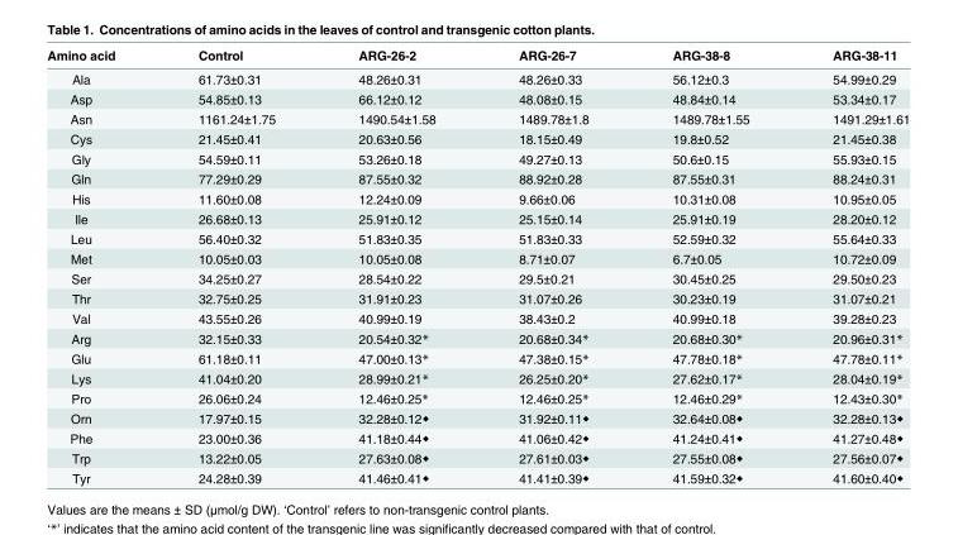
<table><thead><tr><td>Amino acid</td><td>Control</td><td>ARG-26-2</td><td>ARG-26-7</td><td>ARG-38-8</td><td>ARG-38-11</td></tr></thead><tbody><tr><td>Ala</td><td>61.73±0.31</td><td>48.26±0.31</td><td>48.26±0.33</td><td>56.12±0.3</td><td>54.99±0.29</td></tr><tr><td>Asp</td><td>54.85±0.13</td><td>66.12±0.12</td><td>48.08±0.15</td><td>48.84±0.14</td><td>53.34±0.17</td></tr><tr><td>Asn</td><td>1161.24±1.75</td><td>1490.54±1.58</td><td>1489.78±1.8</td><td>1489.78±1.55</td><td>1491.29±1.61</td></tr><tr><td>Cys</td><td>21.45±0.41</td><td>20.63±0.56</td><td>18.15±0.49</td><td>19.8±0.52</td><td>21.45±0.38</td></tr><tr><td>Gly</td><td>54.59±0.11</td><td>53.26±0.18</td><td>49.27±0.13</td><td>50.6±0.15</td><td>55.93±0.15</td></tr><tr><td>Gln</td><td>77.29±0.29</td><td>87.55±0.32</td><td>88.92±0.28</td><td>87.55±0.31</td><td>88.24±0.31</td></tr><tr><td>His</td><td>11.60±0.08</td><td>12.24±0.09</td><td>9.66±0.06</td><td>10.31±0.08</td><td>10.95±0.05</td></tr><tr><td>Ile</td><td>26.68±0.13</td><td>25.91±0.12</td><td>25.15±0.14</td><td>25.91±0.19</td><td>28.20±0.12</td></tr><tr><td>Leu</td><td>56.40±0.32</td><td>51.83±0.35</td><td>51.83±0.33</td><td>52.59±0.32</td><td>55.64±0.33</td></tr><tr><td>Met</td><td>10.05±0.03</td><td>10.05±0.08</td><td>8.71±0.07</td><td>6.7±0.05</td><td>10.72±0.09</td></tr><tr><td>Ser</td><td>34.25±0.27</td><td>28.54±0.22</td><td>29.5±0.21</td><td>30.45±0.25</td><td>29.50±0.23</td></tr><tr><td>Thr</td><td>32.75±0.25</td><td>31.91±0.23</td><td>31.07±0.26</td><td>30.23±0.19</td><td>31.07±0.21</td></tr><tr><td>Val</td><td>43.55±0.26</td><td>40.99±0.19</td><td>38.43±0.2</td><td>40.99±0.18</td><td>39.28±0.23</td></tr><tr><td>Arg</td><td>32.15±0.33</td><td>20.54±0.32*</td><td>20.68±0.34*</td><td>20.68±0.30*</td><td>20.96±0.31*</td></tr><tr><td>Glu</td><td>61.18±0.11</td><td>47.00±0.13*</td><td>47.38±0.15*</td><td>47.78±0.18*</td><td>47.78±0.11*</td></tr><tr><td>Lys</td><td>41.04±0.20</td><td>28.99±0.21*</td><td>26.25±0.20*</td><td>27.62±0.17*</td><td>28.04±0.19*</td></tr><tr><td>Pro</td><td>26.06±0.24</td><td>12.46±0.25*</td><td>12.46±0.25*</td><td>12.46±0.29*</td><td>12.43±0.30*</td></tr><tr><td>Orn</td><td>17.97±0.15</td><td>32.28±0.12◆</td><td>31.92±0.11◆</td><td>32.64±0.08◆</td><td>32.28±0.13◆</td></tr><tr><td>Phe</td><td>23.00±0.36</td><td>41.18±0.44◆</td><td>41.06±0.42◆</td><td>41.24±0.41◆</td><td>41.27±0.48◆</td></tr><tr><td>Trp</td><td>13.22±0.05</td><td>27.63±0.08◆</td><td>27.61±0.03◆</td><td>27.55±0.08◆</td><td>27.56±0.07◆</td></tr><tr><td>Tyr</td><td>24.28±0.39</td><td>41.46±0.41◆</td><td>41.41±0.39◆</td><td>41.59±0.32◆</td><td>41.60±0.40◆</td></tr></tbody></table>